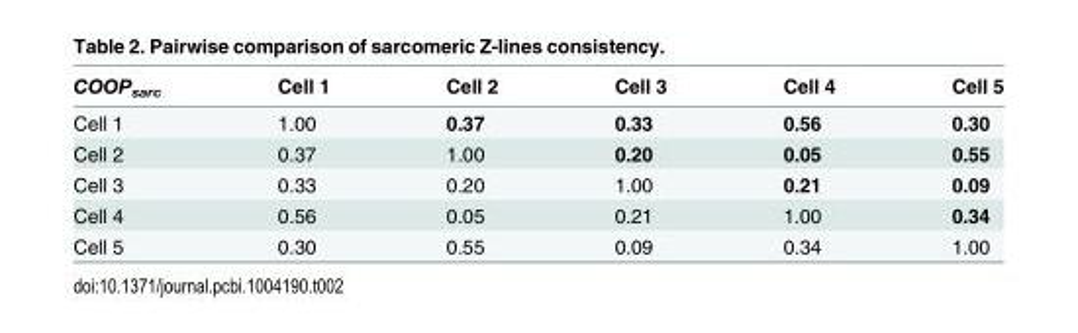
<table><thead><tr><td>COOP<sub>sarc</sub></td><td>Cell 1</td><td>Cell 2</td><td>Cell 3</td><td>Cell 4</td><td>Cell 5</td></tr></thead><tbody><tr><td>Cell 1</td><td>1.00</td><td>0.37</td><td>0.33</td><td>0.56</td><td>0.30</td></tr><tr><td>Cell 2</td><td>0.37</td><td>1.00</td><td>0.20</td><td>0.05</td><td>0.55</td></tr><tr><td>Cell 3</td><td>0.33</td><td>0.20</td><td>1.00</td><td>0.21</td><td>0.09</td></tr><tr><td>Cell 4</td><td>0.56</td><td>0.05</td><td>0.21</td><td>1.00</td><td>0.34</td></tr><tr><td>Cell 5</td><td>0.30</td><td>0.55</td><td>0.09</td><td>0.34</td><td>1.00</td></tr></tbody></table>